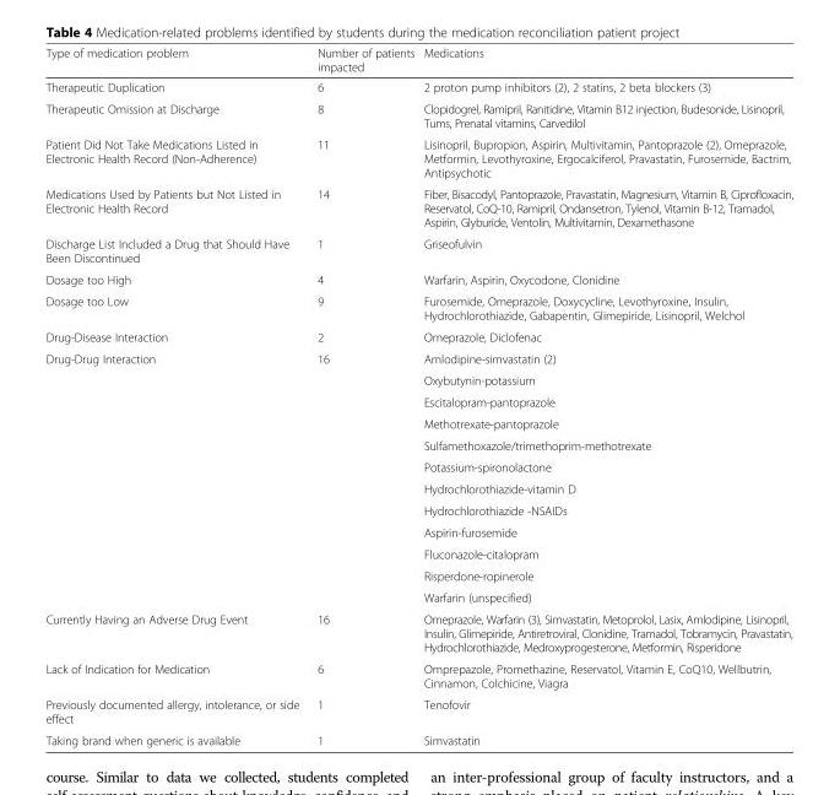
<table><thead><tr><td>Type of medication problem</td><td>Number of patients impacted</td><td>Medications</td></tr></thead><tbody><tr><td>Therapeutic Duplication</td><td>6</td><td>2 proton pump inhibitors (2), 2 statins, 2 beta blockers (3)</td></tr><tr><td>Therapeutic Omission at Discharge</td><td>8</td><td>Clopidogrel, Ramipril, Ranitidine, Vitamin B12 injection, Budesonide, Lisinopril, Tums, Prenatal vitamins, Carvedilol</td></tr><tr><td>Patient Did Not Take Medications Listed in Electronic Health Record (Non-Adherence)</td><td>11</td><td>Lisinopril, Bupropion, Aspirin, Multivitamin, Pantoprazole (2), Omeprazole, Metformin, Levothyroxine, Ergocalciferol, Pravastatin, Furosemide, Bactrim, Antipsychotic</td></tr><tr><td>Medications Used by Patients but Not Listed in Electronic Health Record</td><td>14</td><td>Fiber, Bisacodyl, Pantoprazole, Pravastatin, Magnesium, Vitamin B, Ciprofloxacin, Reservatol, CoQ-10, Ramipril, Ondansetron, Tylenol, Vitamin B-12, Tramadol, Aspirin, Glyburide, Ventolin, Multivitamin, Dexamethasone</td></tr><tr><td>Discharge List Included a Drug that Should Have Been Discontinued</td><td>1</td><td>Griseofulvin</td></tr><tr><td>Dosage too High</td><td>4</td><td>Warfarin, Aspirin, Oxycodone, Clonidine</td></tr><tr><td>Dosage too Low</td><td>9</td><td>Furosemide, Omeprazole, Doxycycline, Levothyroxine, Insulin, Hydrochlorothiazide, Gabapentin, Glimepiride, Lisinopril, Welchol</td></tr><tr><td>Drug-Disease Interaction</td><td>2</td><td>Omeprazole, Diclofenac</td></tr><tr><td rowspan="12">Drug-Drug Interaction</td><td rowspan="12">16</td><td>Amlodipine-simvastatin (2)</td></tr><tr><td>Oxybutynin-potassium</td></tr><tr><td>Escitalopram-pantoprazole</td></tr><tr><td>Methotrexate-pantoprazole</td></tr><tr><td>Sulfamethoxazole/trimethoprim-methotrexate</td></tr><tr><td>Potassium-spironolactone</td></tr><tr><td>Hydrochlorothiazide-vitamin D</td></tr><tr><td>Hydrochlorothiazide -NSAIDs</td></tr><tr><td>Aspirin-furosemide</td></tr><tr><td>Fluconazole-citalopram</td></tr><tr><td>Risperdone-ropinerole</td></tr><tr><td>Warfarin (unspecified)</td></tr><tr><td>Currently Having an Adverse Drug Event</td><td>16</td><td>Omeprazole, Warfarin (3), Simvastatin, Metoprolol, Lasix, Amlodipine, Lisinopril, Insulin, Glimepiride, Antiretroviral, Clonidine, Tramadol, Tobramycin, Pravastatin, Hydrochlorothiazide, Medroxyprogesterone, Metformin, Risperidone</td></tr><tr><td>Lack of Indication for Medication</td><td>6</td><td>Omprepazole, Promethazine, Reservatol, Vitamin E, CoQ10, Wellbutrin, Cinnamon, Colchicine, Viagra</td></tr><tr><td>Previously documented allergy, intolerance, or side effect</td><td>1</td><td>Tenofovir</td></tr><tr><td>Taking brand when generic is available</td><td>1</td><td>Simvastatin</td></tr></tbody></table>